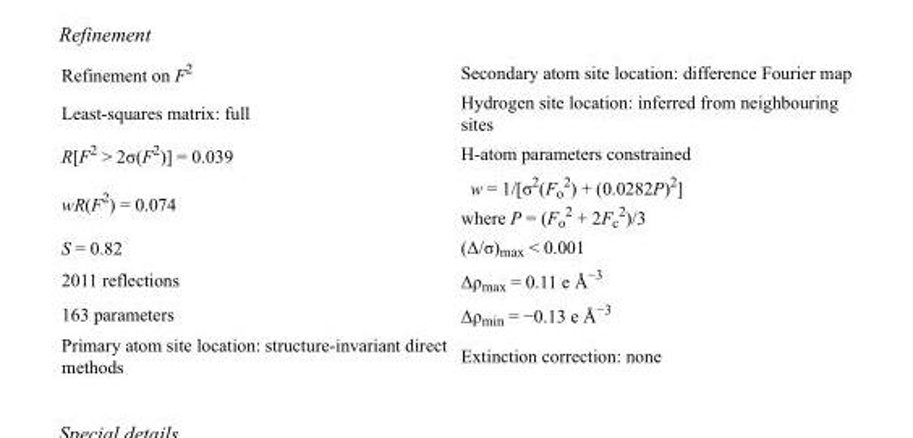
<table><tbody><tr><td>Refinement on F<sup>2</sup></td><td>Secondary atom site location: difference Fourier map</td></tr><tr><td>Least-squares matrix: full</td><td>Hydrogen site location: inferred from neighbouring sites</td></tr><tr><td>R[F<sup>2</sup> &gt; 2σ(F<sup>2</sup>)] = 0.039</td><td>H-atom parameters constrained</td></tr><tr><td>wR(F<sup>2</sup>) = 0.074</td><td>w = 1/[σ<sup>2</sup>(F<sub>o</sub> <sup>2</sup>) + (0.0282P)<sup>2</sup>] where P = (F<sub>o</sub> <sup>2</sup> + 2F<sub>c</sub> <sup>2</sup>)/3</td></tr><tr><td>S = 0.82</td><td>(Δ/σ)<sub>max</sub> &lt; 0.001</td></tr><tr><td>2011 reflections</td><td>Δρ<sub>max</sub> = 0.11 e Å<sup>−3</sup></td></tr><tr><td>163 parameters</td><td>Δρ<sub>min</sub> = −0.13 e Å<sup>−3</sup></td></tr><tr><td>Primary atom site location: structure-invariant direct methods</td><td>Extinction correction: none</td></tr></tbody></table>